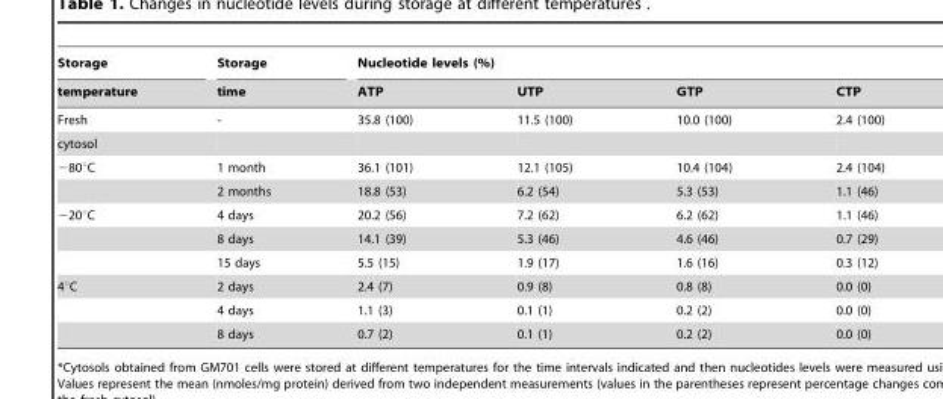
<table><thead><tr><td rowspan="2">Storage temperature</td><td rowspan="2">Storage time</td><td colspan="4">Nucleotide levels (%)</td></tr><tr><td>ATP</td><td>UTP</td><td>GTP</td><td>CTP</td></tr></thead><tbody><tr><td>Fresh</td><td>-</td><td>35.8 (100)</td><td>11.5 (100)</td><td>10.0 (100)</td><td>2.4 (100)</td></tr><tr><td colspan="6">cytosol</td></tr><tr><td rowspan="2">−80°C</td><td>1 month</td><td>36.1 (101)</td><td>12.1 (105)</td><td>10.4 (104)</td><td>2.4 (104)</td></tr><tr><td>2 months</td><td>18.8 (53)</td><td>6.2 (54)</td><td>5.3 (53)</td><td>1.1 (46)</td></tr><tr><td rowspan="3">−20°C</td><td>4 days</td><td>20.2 (56)</td><td>7.2 (62)</td><td>6.2 (62)</td><td>1.1 (46)</td></tr><tr><td>8 days</td><td>14.1 (39)</td><td>5.3 (46)</td><td>4.6 (46)</td><td>0.7 (29)</td></tr><tr><td>15 days</td><td>5.5 (15)</td><td>1.9 (17)</td><td>1.6 (16)</td><td>0.3 (12)</td></tr><tr><td rowspan="3">4°C</td><td>2 days</td><td>2.4 (7)</td><td>0.9 (8)</td><td>0.8 (8)</td><td>0.0 (0)</td></tr><tr><td>4 days</td><td>1.1 (3)</td><td>0.1 (1)</td><td>0.2 (2)</td><td>0.0 (0)</td></tr><tr><td>8 days</td><td>0.7 (2)</td><td>0.1 (1)</td><td>0.2 (2)</td><td>0.0 (0)</td></tr></tbody></table>